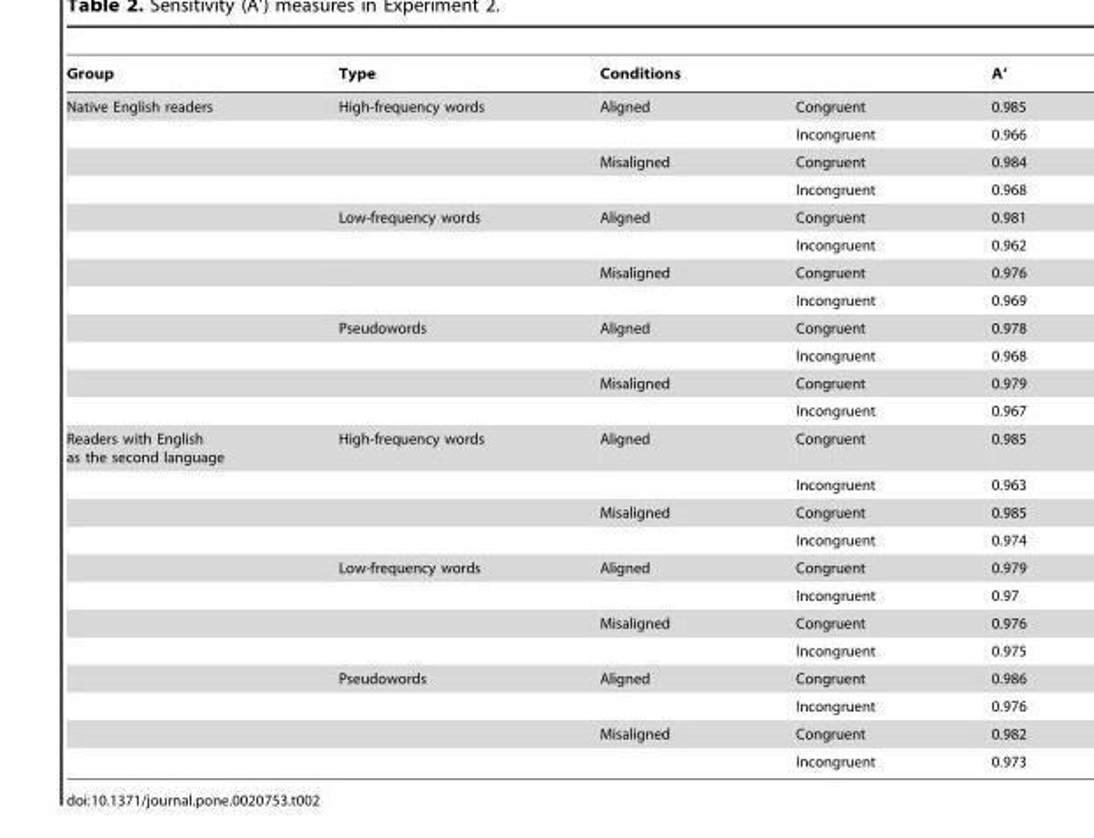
<table><thead><tr><td rowspan="2">Group Native English readers</td><td rowspan="2">Type High-frequency words</td><td colspan="2">Conditions</td><td rowspan="2">A’ 0.985</td></tr><tr><td>Aligned</td><td>Congruent</td></tr></thead><tbody><tr><td></td><td></td><td></td><td>Incongruent</td><td>0.966</td></tr><tr><td></td><td></td><td>Misaligned</td><td>Congruent</td><td>0.984</td></tr><tr><td></td><td></td><td></td><td>Incongruent</td><td>0.968</td></tr><tr><td></td><td>Low-frequency words</td><td>Aligned</td><td>Congruent</td><td>0.981</td></tr><tr><td></td><td></td><td></td><td>Incongruent</td><td>0.962</td></tr><tr><td></td><td></td><td>Misaligned</td><td>Congruent</td><td>0.976</td></tr><tr><td></td><td></td><td></td><td>Incongruent</td><td>0.969</td></tr><tr><td></td><td>Pseudowords</td><td>Aligned</td><td>Congruent</td><td>0.978</td></tr><tr><td></td><td></td><td></td><td>Incongruent</td><td>0.968</td></tr><tr><td></td><td></td><td>Misaligned</td><td>Congruent</td><td>0.979</td></tr><tr><td></td><td></td><td></td><td>Incongruent</td><td>0.967</td></tr><tr><td rowspan="12">Readers with English as the second language</td><td>High-frequency words</td><td>Aligned</td><td>Congruent</td><td>0.985</td></tr><tr><td></td><td></td><td>Incongruent</td><td>0.963</td></tr><tr><td></td><td>Misaligned</td><td>Congruent</td><td>0.985</td></tr><tr><td></td><td></td><td>Incongruent</td><td>0.974</td></tr><tr><td>Low-frequency words</td><td>Aligned</td><td>Congruent</td><td>0.979</td></tr><tr><td></td><td></td><td>Incongruent</td><td>0.97</td></tr><tr><td></td><td>Misaligned</td><td>Congruent</td><td>0.976</td></tr><tr><td></td><td></td><td>Incongruent</td><td>0.975</td></tr><tr><td>Pseudowords</td><td>Aligned</td><td>Congruent</td><td>0.986</td></tr><tr><td></td><td></td><td>Incongruent</td><td>0.976</td></tr><tr><td></td><td>Misaligned</td><td>Congruent</td><td>0.982</td></tr><tr><td></td><td></td><td>Incongruent</td><td>0.973</td></tr></tbody></table>